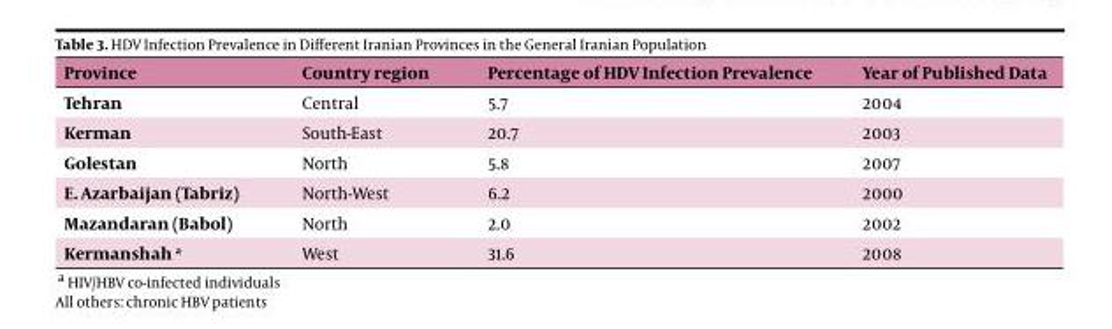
<table><thead><tr><td>Province</td><td>Country region</td><td>Percentage of HDV Infection Prevalence</td><td>Year of Published Data</td></tr></thead><tbody><tr><td>Tehran</td><td>Central</td><td>5.7</td><td>2004</td></tr><tr><td>Kerman</td><td>South-East</td><td>20.7</td><td>2003</td></tr><tr><td>Golestan</td><td>North</td><td>5.8</td><td>2007</td></tr><tr><td>E. Azarbaijan (Tabriz)</td><td>North-West</td><td>6.2</td><td>2000</td></tr><tr><td>Mazandaran (Babol)</td><td>North</td><td>2.0</td><td>2002</td></tr><tr><td>Kermanshah <sup>a</sup></td><td>West</td><td>31.6</td><td>2008</td></tr></tbody></table>